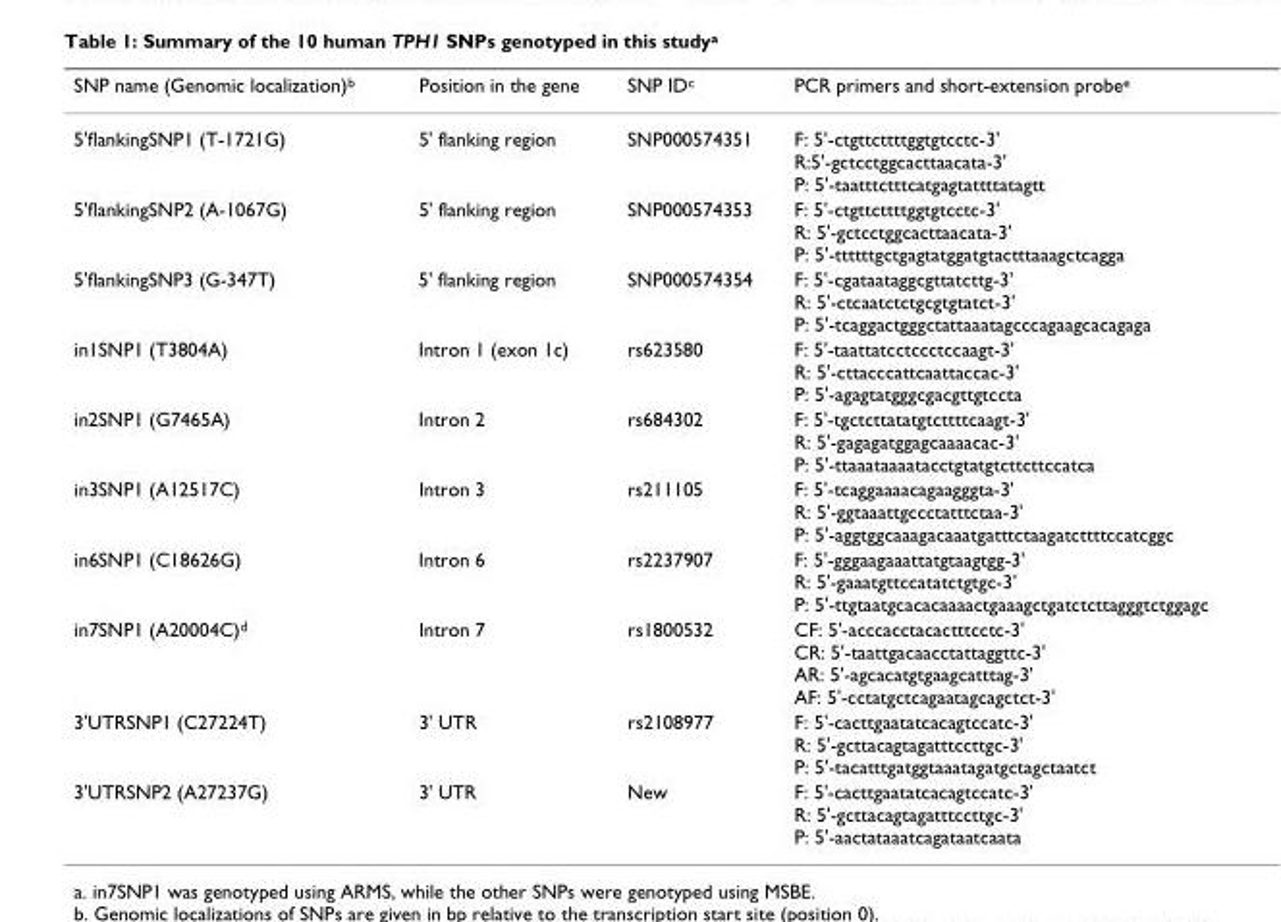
<table><thead><tr><td>SNP name (Genomic localization)b</td><td>Position in the gene</td><td>SNP IDc</td><td>PCR primers and short-extension probee</td></tr></thead><tbody><tr><td>5&#x27;flankingSNP1 (T-1721G)</td><td>5&#x27; flanking region</td><td>SNP000574351</td><td>F: 5&#x27;-ctgttcttttggtgtcctc-3&#x27; R:5&#x27;-gctcctggcacttaacata-3&#x27; P: 5&#x27;-taatttctttcatgagtattttatagtt</td></tr><tr><td>5&#x27;flankingSNP2 (A-1067G)</td><td>5&#x27; flanking region</td><td>SNP000574353</td><td>F: 5&#x27;-ctgttcttttggtgtcctc-3&#x27; R: 5&#x27;-gctcctggcacttaacata-3&#x27; P: 5&#x27;-ttttttgctgagtatggatgtactttaaagctcagga</td></tr><tr><td>5&#x27;flankingSNP3 (G-347T)</td><td>5&#x27; flanking region</td><td>SNP000574354</td><td>F: 5&#x27;-cgataataggcgttatcttg-3&#x27; R: 5&#x27;-ctcaatctctgcgtgtatct-3&#x27; P: 5&#x27;-tcaggactgggctattaaatagcccagaagcacagaga</td></tr><tr><td>in1SNP1 (T3804A)</td><td>Intron 1 (exon 1c)</td><td>rs623580</td><td>F: 5&#x27;-taattatcctccctccaagt-3&#x27; R: 5&#x27;-cttacccattcaattaccac-3&#x27; P: 5&#x27;-agagtatgggcgacgttgtccta</td></tr><tr><td>in2SNP1 (G7465A)</td><td>Intron 2</td><td>rs684302</td><td>F: 5&#x27;-tgctcttatatgtcttttcaagt-3&#x27; R: 5&#x27;-gagagatggagcaaaacac-3&#x27; P: 5&#x27;-ttaaataaaatacctgtatgtcttcttccatca</td></tr><tr><td>in3SNP1 (A12517C)</td><td>Intron 3</td><td>rs211105</td><td>F: 5&#x27;-tcaggaaaacagaagggta-3&#x27; R: 5&#x27;-ggtaaattgccctatttctaa-3&#x27; P: 5&#x27;-aggtggcaaagacaaatgatttctaagatcttttccatcggc</td></tr><tr><td>in6SNP1 (C18626G)</td><td>Intron 6</td><td>rs2237907</td><td>F: 5&#x27;-gggaagaaattatgtaagtgg-3&#x27; R: 5&#x27;-gaaatgttccatatctgtgc-3&#x27; P: 5&#x27;-ttgtaatgcacacaaaactgaaagctgatctcttagggtctggagc</td></tr><tr><td>in7SNP1 (A20004C)d</td><td>Intron 7</td><td>rs1800532</td><td>CF: 5&#x27;-acccacctacactttcctc-3&#x27; CR: 5&#x27;-taattgacaacctattaggttc-3&#x27; AR: 5&#x27;-agcacatgtgaagcatttag-3&#x27; AF: 5&#x27;-cctatgctcagaatagcagctct-3&#x27;</td></tr><tr><td>3&#x27;UTRSNP1 (C27224T)</td><td>3&#x27; UTR</td><td>rs2108977</td><td>F: 5&#x27;-cacttgaatatcacagtccatc-3&#x27; R: 5&#x27;-gcttacagtagatttccttgc-3&#x27; P: 5&#x27;-tacatttgatggtaaatagatgctagctaatct</td></tr><tr><td>3&#x27;UTRSNP2 (A27237G)</td><td>3&#x27; UTR</td><td>New</td><td>F: 5&#x27;-cacttgaatatcacagtccatc-3&#x27; R: 5&#x27;-gcttacagtagatttccttgc-3&#x27; P: 5&#x27;-aactataaatcagataatcaata</td></tr></tbody></table>